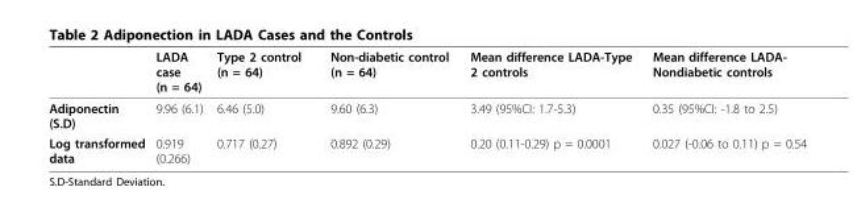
<table><thead><tr><td></td><td>LADA case (n = 64)</td><td>Type 2 control (n = 64)</td><td>Non-diabetic control (n = 64)</td><td>Mean difference LADA-Type 2 controls</td><td>Mean difference LADA- Nondiabetic controls</td></tr></thead><tbody><tr><td>Adiponectin (S.D)</td><td>9.96 (6.1)</td><td>6.46 (5.0)</td><td>9.60 (6.3)</td><td>3.49 (95%CI: 1.7-5.3)</td><td>0.35 (95%CI: -1.8 to 2.5)</td></tr><tr><td>Log transformed data</td><td>0.919 (0.266)</td><td>0.717 (0.27)</td><td>0.892 (0.29)</td><td>0.20 (0.11-0.29) p = 0.0001</td><td>0.027 (-0.06 to 0.11) p = 0.54</td></tr></tbody></table>